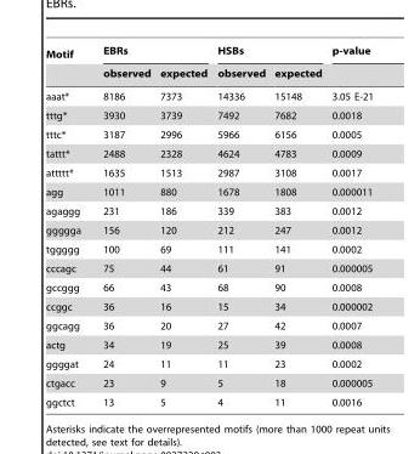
<table><thead><tr><td rowspan="2">Motif</td><td colspan="2">EBRs</td><td colspan="2">HSBs</td><td rowspan="2">p-value</td></tr><tr><td>observed</td><td>expected</td><td>observed</td><td>expected</td></tr></thead><tbody><tr><td>aaat*</td><td>8186</td><td>7373</td><td>14336</td><td>15148</td><td>3.05 E-21</td></tr><tr><td>tttg*</td><td>3930</td><td>3739</td><td>7492</td><td>7682</td><td>0.0018</td></tr><tr><td>tttc*</td><td>3187</td><td>2996</td><td>5966</td><td>6156</td><td>0.0005</td></tr><tr><td>tattt*</td><td>2488</td><td>2328</td><td>4624</td><td>4783</td><td>0.0009</td></tr><tr><td>attttt*</td><td>1635</td><td>1513</td><td>2987</td><td>3108</td><td>0.0017</td></tr><tr><td>agg</td><td>1011</td><td>880</td><td>1678</td><td>1808</td><td>0.000011</td></tr><tr><td>agaggg</td><td>231</td><td>186</td><td>339</td><td>383</td><td>0.0012</td></tr><tr><td>ggggga</td><td>156</td><td>120</td><td>212</td><td>247</td><td>0.0012</td></tr><tr><td>tggggg</td><td>100</td><td>69</td><td>111</td><td>141</td><td>0.0002</td></tr><tr><td>cccagc</td><td>75</td><td>44</td><td>61</td><td>91</td><td>0.000005</td></tr><tr><td>gccggg</td><td>66</td><td>43</td><td>68</td><td>90</td><td>0.0008</td></tr><tr><td>ccggc</td><td>36</td><td>16</td><td>15</td><td>34</td><td>0.000002</td></tr><tr><td>ggcagg</td><td>36</td><td>20</td><td>27</td><td>42</td><td>0.0007</td></tr><tr><td>actg</td><td>34</td><td>19</td><td>25</td><td>39</td><td>0.0008</td></tr><tr><td>ggggat</td><td>24</td><td>11</td><td>11</td><td>23</td><td>0.0002</td></tr><tr><td>ctgacc</td><td>23</td><td>9</td><td>5</td><td>18</td><td>0.000005</td></tr><tr><td>ggctct</td><td>13</td><td>5</td><td>4</td><td>11</td><td>0.0016</td></tr></tbody></table>